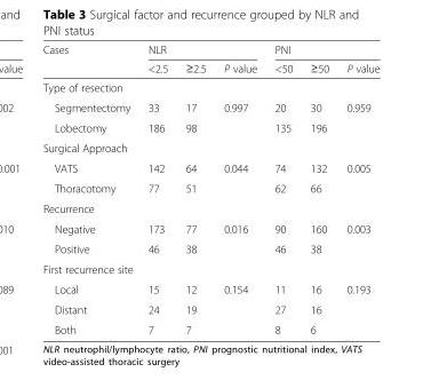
<table><thead><tr><td rowspan="2">Cases</td><td colspan="3">NLR</td><td colspan="3">PNI</td></tr><tr><td>&lt;2.5</td><td>≥2.5</td><td>P value</td><td>&lt;50</td><td>≥50</td><td>P value</td></tr></thead><tbody><tr><td colspan="7">Type of resection</td></tr><tr><td>Segmentectomy</td><td>33</td><td>17</td><td>0.997</td><td>20</td><td>30</td><td>0.959</td></tr><tr><td>Lobectomy</td><td>186</td><td>98</td><td></td><td>135</td><td>196</td><td></td></tr><tr><td colspan="7">Surgical Approach</td></tr><tr><td>VATS</td><td>142</td><td>64</td><td>0.044</td><td>74</td><td>132</td><td>0.005</td></tr><tr><td>Thoracotomy</td><td>77</td><td>51</td><td></td><td>62</td><td>66</td><td></td></tr><tr><td colspan="7">Recurrence</td></tr><tr><td>Negative</td><td>173</td><td>77</td><td>0.016</td><td>90</td><td>160</td><td>0.003</td></tr><tr><td>Positive</td><td>46</td><td>38</td><td></td><td>46</td><td>38</td><td></td></tr><tr><td colspan="7">First recurrence site</td></tr><tr><td>Local</td><td>15</td><td>12</td><td>0.154</td><td>11</td><td>16</td><td>0.193</td></tr><tr><td>Distant</td><td>24</td><td>19</td><td></td><td>27</td><td>16</td><td></td></tr><tr><td>Both</td><td>7</td><td>7</td><td></td><td>8</td><td>6</td><td></td></tr></tbody></table>